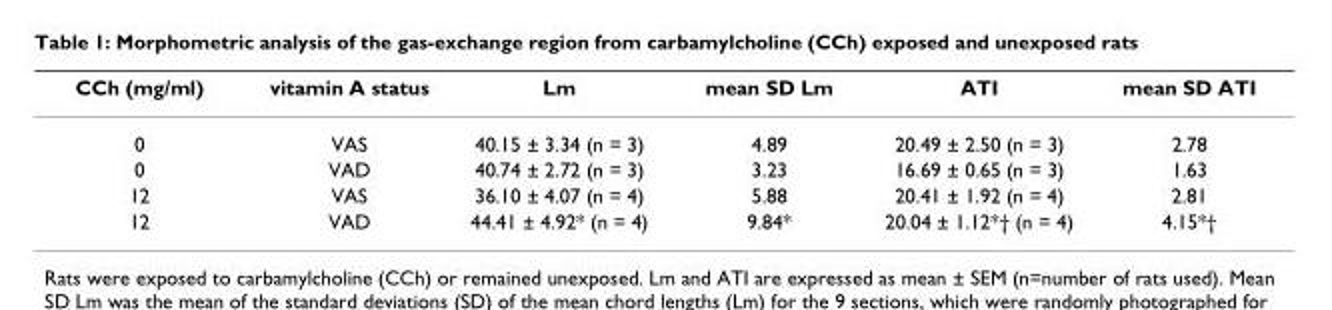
<table><thead><tr><td>CCh (mg/ml)</td><td>vitamin A status</td><td>Lm</td><td>mean SD Lm</td><td>ATI</td><td>mean SD ATI</td></tr></thead><tbody><tr><td>0</td><td>VAS</td><td>40.15 ± 3.34 (n = 3)</td><td>4.89</td><td>20.49 ± 2.50 (n = 3)</td><td>2.78</td></tr><tr><td>0</td><td>VAD</td><td>40.74 ± 2.72 (n = 3)</td><td>3.23</td><td>16.69 ± 0.65 (n = 3)</td><td>1.63</td></tr><tr><td>12</td><td>VAS</td><td>36.10 ± 4.07 (n = 4)</td><td>5.88</td><td>20.41 ± 1.92 (n = 4)</td><td>2.81</td></tr><tr><td>12</td><td>VAD</td><td>44.41 ± 4.92* (n = 4)</td><td>9.84*</td><td>20.04 ± 1.12*† (n = 4)</td><td>4.15*†</td></tr></tbody></table>